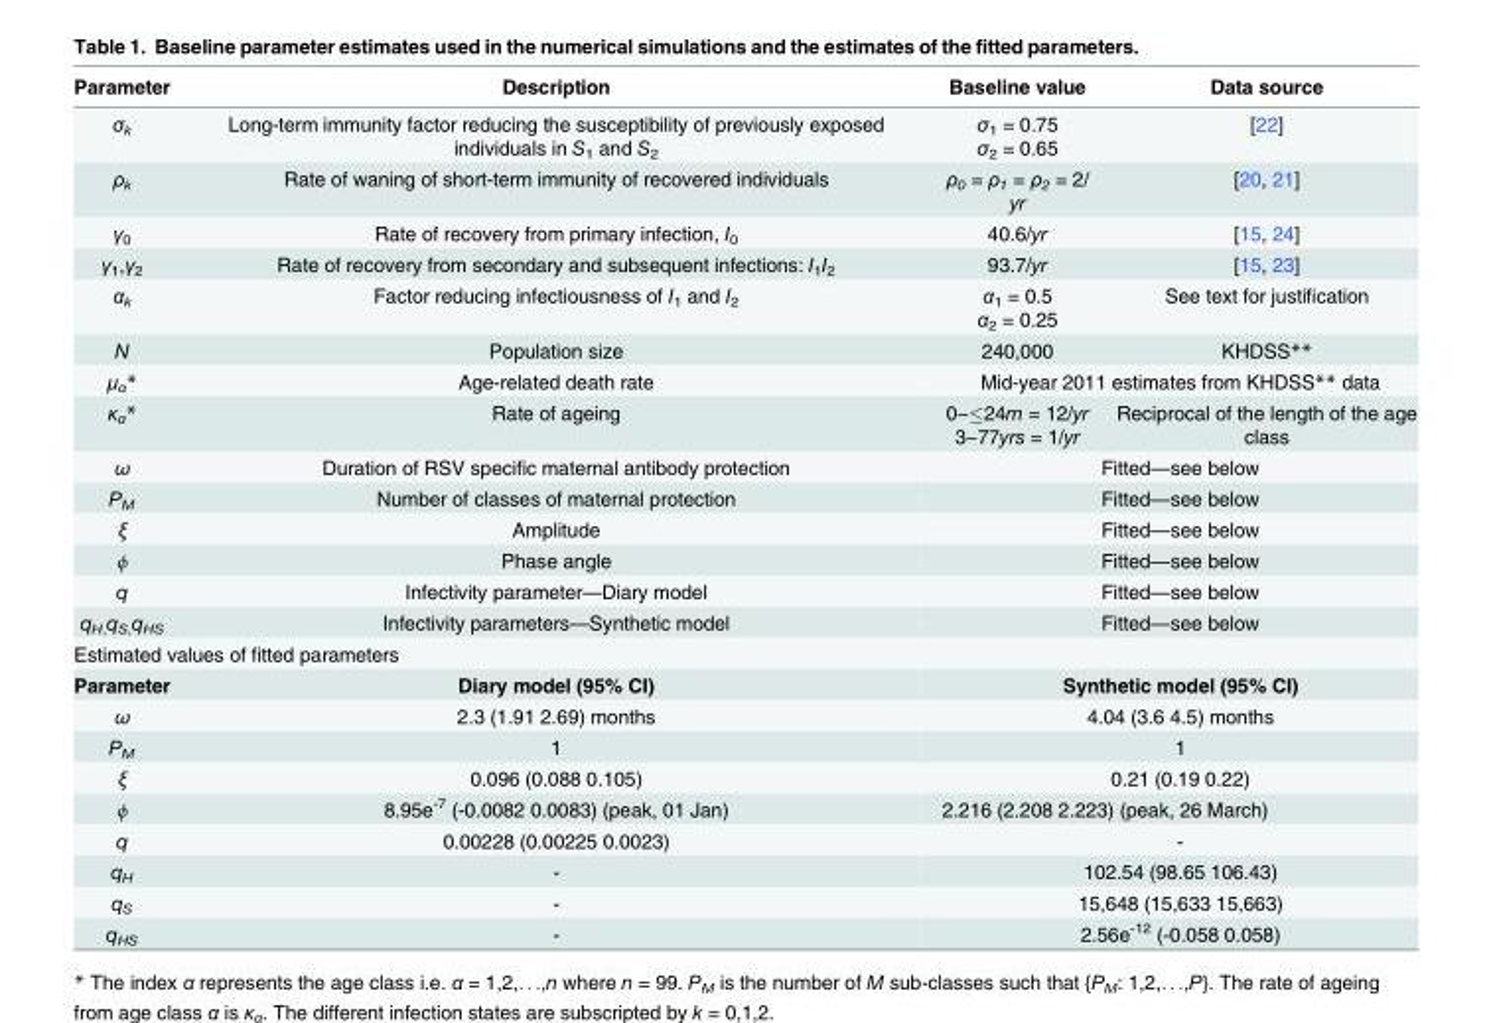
<table><thead><tr><td>Parameter</td><td>Description</td><td>Baseline value</td><td>Data source</td></tr></thead><tbody><tr><td>σ<sub>k</sub></td><td>Long-term immunity factor reducing the susceptibility of previously exposed individuals in S<sub>1</sub> and S<sub>2</sub></td><td>σ<sub>1</sub> = 0.75 σ<sub>2</sub> = 0.65</td><td>[22]</td></tr><tr><td>ρ<sub>k</sub></td><td>Rate of waning of short-term immunity of recovered individuals</td><td>ρ<sub>0</sub> = ρ<sub>1</sub> = ρ<sub>2</sub> = 2/ yr</td><td>[20, 21]</td></tr><tr><td>γ<sub>0</sub></td><td>Rate of recovery from primary infection, I<sub>0</sub></td><td>40.6/yr</td><td>[15, 24]</td></tr><tr><td>γ<sub>1</sub>,γ<sub>2</sub></td><td>Rate of recovery from secondary and subsequent infections: I<sub>1</sub>I<sub>2</sub></td><td>93.7/yr</td><td>[15, 23]</td></tr><tr><td>α<sub>k</sub></td><td>Factor reducing infectiousness of I<sub>1</sub> and I<sub>2</sub></td><td>α<sub>1</sub> = 0.5 α<sub>2</sub> = 0.25</td><td>See text for justification</td></tr><tr><td>N</td><td>Population size</td><td>240,000</td><td>KHDSS**</td></tr><tr><td>μ<sub>α</sub>*</td><td>Age-related death rate</td><td colspan="2">Mid-year 2011 estimates from KHDSS** data</td></tr><tr><td>κ<sub>α</sub>*</td><td>Rate of ageing</td><td>0−≤24m = 12/yr 3−77yrs = 1/yr</td><td>Reciprocal of the length of the age class</td></tr><tr><td>ω</td><td>Duration of RSV specific maternal antibody protection</td><td colspan="2">Fitted—see below</td></tr><tr><td>P<sub>M</sub></td><td>Number of classes of maternal protection</td><td colspan="2">Fitted—see below</td></tr><tr><td>ξ</td><td>Amplitude</td><td colspan="2">Fitted—see below</td></tr><tr><td>ϕ</td><td>Phase angle</td><td colspan="2">Fitted—see below</td></tr><tr><td>q</td><td>Infectivity parameter—Diary model</td><td colspan="2">Fitted—see below</td></tr><tr><td>q<sub>H,</sub>q<sub>S,</sub>q<sub>HS</sub></td><td>Infectivity parameters—Synthetic model</td><td colspan="2">Fitted—see below</td></tr><tr><td colspan="4">Estimated values of fitted parameters</td></tr><tr><td>Parameter</td><td>Diary model (95% CI)</td><td colspan="2">Synthetic model (95% CI)</td></tr><tr><td>ω</td><td>2.3 (1.91 2.69) months</td><td colspan="2">4.04 (3.6 4.5) months</td></tr><tr><td>P<sub>M</sub></td><td>1</td><td colspan="2">1</td></tr><tr><td>ξ</td><td>0.096 (0.088 0.105)</td><td colspan="2">0.21 (0.19 0.22)</td></tr><tr><td>ϕ</td><td>8.95e<sup>-7</sup> (-0.0082 0.0083) (peak, 01 Jan)</td><td colspan="2">2.216 (2.208 2.223) (peak, 26 March)</td></tr><tr><td>q</td><td>0.00228 (0.00225 0.0023)</td><td colspan="2">-</td></tr><tr><td>q<sub>H</sub></td><td>-</td><td colspan="2">102.54 (98.65 106.43)</td></tr><tr><td>q<sub>S</sub></td><td>-</td><td colspan="2">15,648 (15,633 15,663)</td></tr><tr><td>q<sub>HS</sub></td><td>-</td><td colspan="2">2.56e<sup>-12</sup> (-0.058 0.058)</td></tr></tbody></table>